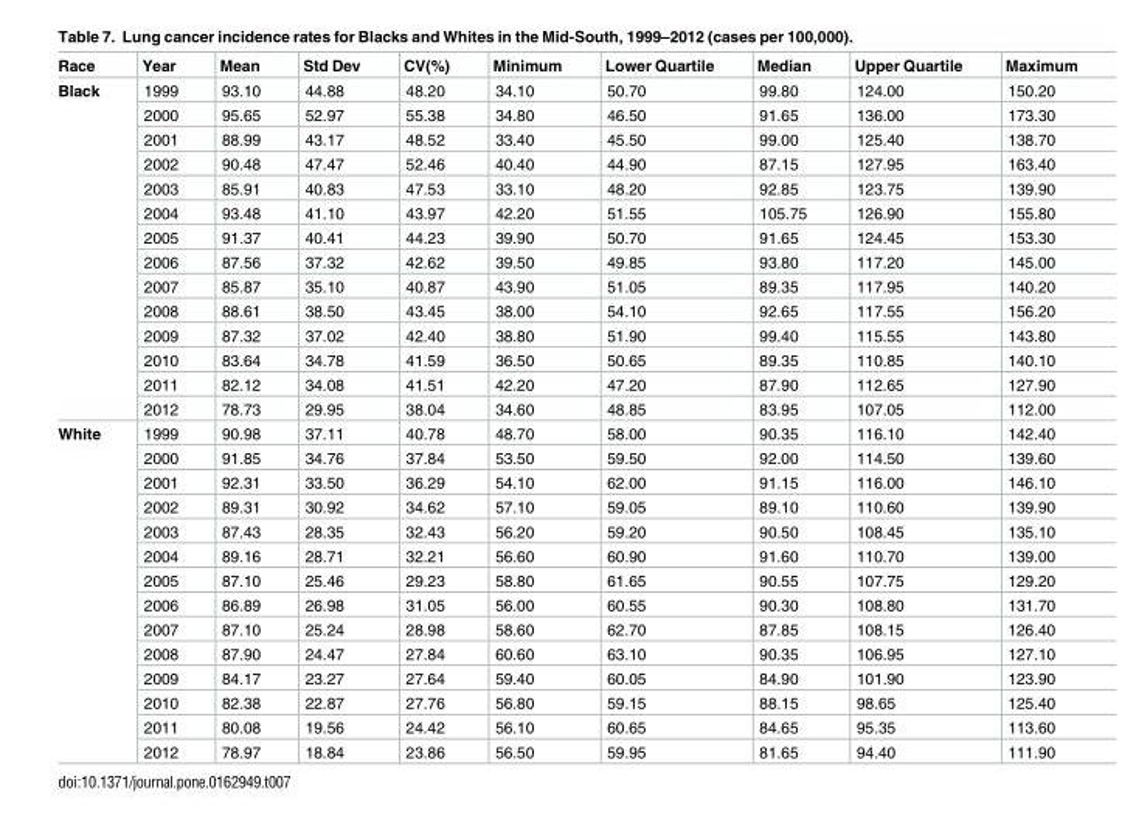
<table><thead><tr><td>Race</td><td>Year</td><td>Mean</td><td>Std Dev</td><td>CV(%)</td><td>Minimum</td><td>Lower Quartile</td><td>Median</td><td>Upper Quartile</td><td>Maximum</td></tr></thead><tbody><tr><td rowspan="14">Black</td><td>1999</td><td>93.10</td><td>44.88</td><td>48.20</td><td>34.10</td><td>50.70</td><td>99.80</td><td>124.00</td><td>150.20</td></tr><tr><td>2000</td><td>95.65</td><td>52.97</td><td>55.38</td><td>34.80</td><td>46.50</td><td>91.65</td><td>136.00</td><td>173.30</td></tr><tr><td>2001</td><td>88.99</td><td>43.17</td><td>48.52</td><td>33.40</td><td>45.50</td><td>99.00</td><td>125.40</td><td>138.70</td></tr><tr><td>2002</td><td>90.48</td><td>47.47</td><td>52.46</td><td>40.40</td><td>44.90</td><td>87.15</td><td>127.95</td><td>163.40</td></tr><tr><td>2003</td><td>85.91</td><td>40.83</td><td>47.53</td><td>33.10</td><td>48.20</td><td>92.85</td><td>123.75</td><td>139.90</td></tr><tr><td>2004</td><td>93.48</td><td>41.10</td><td>43.97</td><td>42.20</td><td>51.55</td><td>105.75</td><td>126.90</td><td>155.80</td></tr><tr><td>2005</td><td>91.37</td><td>40.41</td><td>44.23</td><td>39.90</td><td>50.70</td><td>91.65</td><td>124.45</td><td>153.30</td></tr><tr><td>2006</td><td>87.56</td><td>37.32</td><td>42.62</td><td>39.50</td><td>49.85</td><td>93.80</td><td>117.20</td><td>145.00</td></tr><tr><td>2007</td><td>85.87</td><td>35.10</td><td>40.87</td><td>43.90</td><td>51.05</td><td>89.35</td><td>117.95</td><td>140.20</td></tr><tr><td>2008</td><td>88.61</td><td>38.50</td><td>43.45</td><td>38.00</td><td>54.10</td><td>92.65</td><td>117.55</td><td>156.20</td></tr><tr><td>2009</td><td>87.32</td><td>37.02</td><td>42.40</td><td>38.80</td><td>51.90</td><td>99.40</td><td>115.55</td><td>143.80</td></tr><tr><td>2010</td><td>83.64</td><td>34.78</td><td>41.59</td><td>36.50</td><td>50.65</td><td>89.35</td><td>110.85</td><td>140.10</td></tr><tr><td>2011</td><td>82.12</td><td>34.08</td><td>41.51</td><td>42.20</td><td>47.20</td><td>87.90</td><td>112.65</td><td>127.90</td></tr><tr><td>2012</td><td>78.73</td><td>29.95</td><td>38.04</td><td>34.60</td><td>48.85</td><td>83.95</td><td>107.05</td><td>112.00</td></tr><tr><td rowspan="14">White</td><td>1999</td><td>90.98</td><td>37.11</td><td>40.78</td><td>48.70</td><td>58.00</td><td>90.35</td><td>116.10</td><td>142.40</td></tr><tr><td>2000</td><td>91.85</td><td>34.76</td><td>37.84</td><td>53.50</td><td>59.50</td><td>92.00</td><td>114.50</td><td>139.60</td></tr><tr><td>2001</td><td>92.31</td><td>33.50</td><td>36.29</td><td>54.10</td><td>62.00</td><td>91.15</td><td>116.00</td><td>146.10</td></tr><tr><td>2002</td><td>89.31</td><td>30.92</td><td>34.62</td><td>57.10</td><td>59.05</td><td>89.10</td><td>110.60</td><td>139.90</td></tr><tr><td>2003</td><td>87.43</td><td>28.35</td><td>32.43</td><td>56.20</td><td>59.20</td><td>90.50</td><td>108.45</td><td>135.10</td></tr><tr><td>2004</td><td>89.16</td><td>28.71</td><td>32.21</td><td>56.60</td><td>60.90</td><td>91.60</td><td>110.70</td><td>139.00</td></tr><tr><td>2005</td><td>87.10</td><td>25.46</td><td>29.23</td><td>58.80</td><td>61.65</td><td>90.55</td><td>107.75</td><td>129.20</td></tr><tr><td>2006</td><td>86.89</td><td>26.98</td><td>31.05</td><td>56.00</td><td>60.55</td><td>90.30</td><td>108.80</td><td>131.70</td></tr><tr><td>2007</td><td>87.10</td><td>25.24</td><td>28.98</td><td>58.60</td><td>62.70</td><td>87.85</td><td>108.15</td><td>126.40</td></tr><tr><td>2008</td><td>87.90</td><td>24.47</td><td>27.84</td><td>60.60</td><td>63.10</td><td>90.35</td><td>106.95</td><td>127.10</td></tr><tr><td>2009</td><td>84.17</td><td>23.27</td><td>27.64</td><td>59.40</td><td>60.05</td><td>84.90</td><td>101.90</td><td>123.90</td></tr><tr><td>2010</td><td>82.38</td><td>22.87</td><td>27.76</td><td>56.80</td><td>59.15</td><td>88.15</td><td>98.65</td><td>125.40</td></tr><tr><td>2011</td><td>80.08</td><td>19.56</td><td>24.42</td><td>56.10</td><td>60.65</td><td>84.65</td><td>95.35</td><td>113.60</td></tr><tr><td>2012</td><td>78.97</td><td>18.84</td><td>23.86</td><td>56.50</td><td>59.95</td><td>81.65</td><td>94.40</td><td>111.90</td></tr></tbody></table>